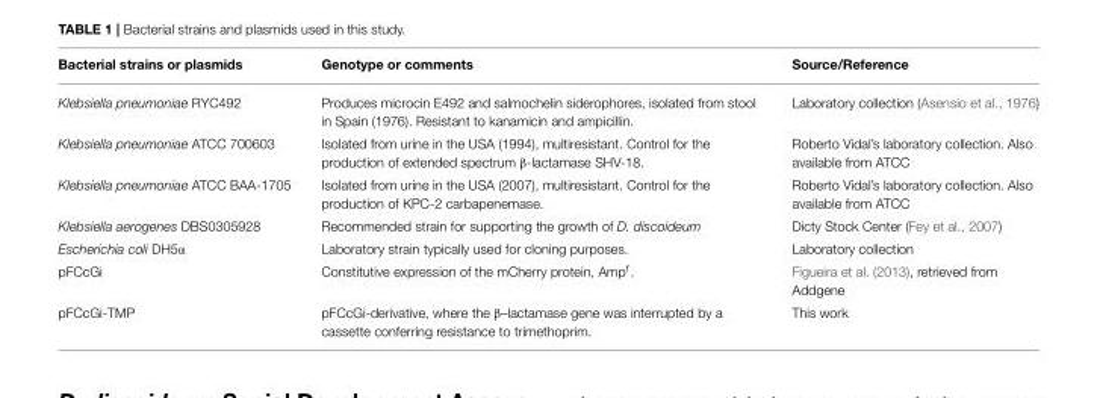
<table><thead><tr><td>Bacterial strains or plasmids</td><td>Genotype or comments</td><td>Source/Reference</td></tr></thead><tbody><tr><td>Klebsiella pneumoniae RYC492</td><td>Produces microcin E492 and salmochelin siderophores, isolated from stool in Spain (1976). Resistant to kanamicin and ampicillin.</td><td>Laboratory collection (Asensio et al., 1976)</td></tr><tr><td>Klebsiella pneumoniae ATCC 700603</td><td>Isolated from urine in the USA (1994), multiresistant. Control for the production of extended spectrum β-lactamase SHV-18.</td><td>Roberto Vidal’s laboratory collection. Also available from ATCC</td></tr><tr><td>Klebsiella pneumoniae ATCC BAA-1705</td><td>Isolated from urine in the USA (2007), multiresistant. Control for the production of KPC-2 carbapenemase.</td><td>Roberto Vidal’s laboratory collection. Also available from ATCC</td></tr><tr><td>Klebsiella aerogenes DBS0305928</td><td>Recommended strain for supporting the growth of D. discoideum</td><td>Dicty Stock Center (Fey et al., 2007)</td></tr><tr><td>Escherichia coli DH5α</td><td>Laboratory strain typically used for cloning purposes.</td><td>Laboratory collection</td></tr><tr><td>pFCcGi</td><td>Constitutive expression of the mCherry protein, Amp<sup>r</sup>.</td><td>Figueira et al. (2013), retrieved from Addgene</td></tr><tr><td>pFCcGi-TMP</td><td>pFCcGi-derivative, where the β–lactamase gene was interrupted by a cassette conferring resistance to trimethoprim.</td><td>This work</td></tr></tbody></table>